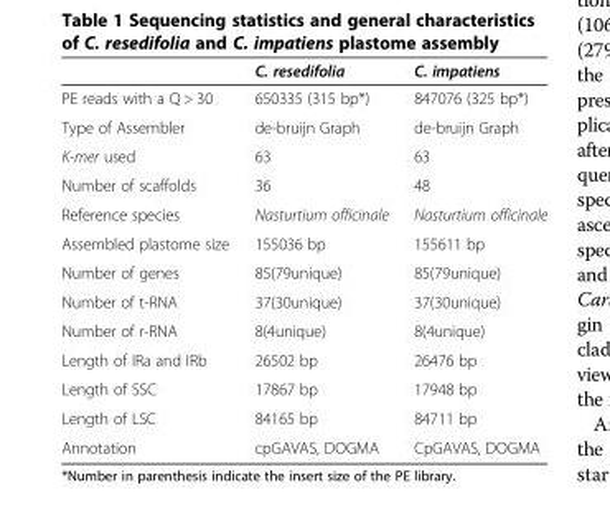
<table><thead><tr><td></td><td>C. resedifolia</td><td>C. impatiens</td></tr></thead><tbody><tr><td>PE reads with a Q &gt; 30</td><td>650335 (315 bp*)</td><td>847076 (325 bp*)</td></tr><tr><td>Type of Assembler</td><td>de-bruijn Graph</td><td>de-bruijn Graph</td></tr><tr><td>K-mer used</td><td>63</td><td>63</td></tr><tr><td>Number of scaffolds</td><td>36</td><td>48</td></tr><tr><td>Reference species</td><td>Nasturtium officinale</td><td>Nasturtium officinale</td></tr><tr><td>Assembled plastome size</td><td>155036 bp</td><td>155611 bp</td></tr><tr><td>Number of genes</td><td>85(79unique)</td><td>85(79unique)</td></tr><tr><td>Number of t-RNA</td><td>37(30unique)</td><td>37(30unique)</td></tr><tr><td>Number of r-RNA</td><td>8(4unique)</td><td>8(4unique)</td></tr><tr><td>Length of IRa and IRb</td><td>26502 bp</td><td>26476 bp</td></tr><tr><td>Length of SSC</td><td>17867 bp</td><td>17948 bp</td></tr><tr><td>Length of LSC</td><td>84165 bp</td><td>84711 bp</td></tr><tr><td>Annotation</td><td>cpGAVAS, DOGMA</td><td>CpGAVAS, DOGMA</td></tr></tbody></table>